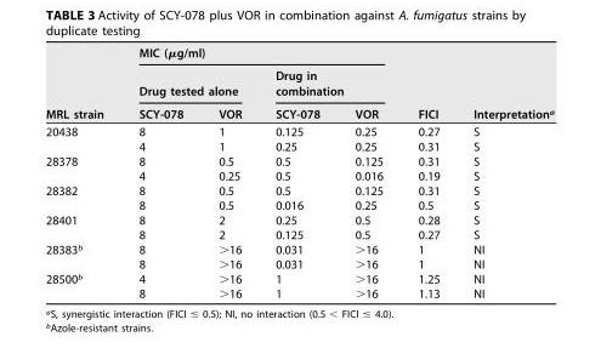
<table><thead><tr><td rowspan="3">MRL strain</td><td colspan="4">MIC (μg/ml)</td><td rowspan="3">FICI</td><td rowspan="3">Interpretation<sup>a</sup></td></tr><tr><td colspan="2">Drug tested alone</td><td colspan="2">Drug in combination</td></tr><tr><td>SCY-078</td><td>VOR</td><td>SCY-078</td><td>VOR</td></tr></thead><tbody><tr><td rowspan="2">20438</td><td>8</td><td>1</td><td>0.125</td><td>0.25</td><td>0.27</td><td>S</td></tr><tr><td>4</td><td>1</td><td>0.25</td><td>0.25</td><td>0.31</td><td>S</td></tr><tr><td rowspan="2">28378</td><td>8</td><td>0.5</td><td>0.5</td><td>0.125</td><td>0.31</td><td>S</td></tr><tr><td>4</td><td>0.25</td><td>0.5</td><td>0.016</td><td>0.19</td><td>S</td></tr><tr><td rowspan="2">28382</td><td>8</td><td>0.5</td><td>0.5</td><td>0.125</td><td>0.31</td><td>S</td></tr><tr><td>8</td><td>0.5</td><td>0.016</td><td>0.25</td><td>0.5</td><td>S</td></tr><tr><td rowspan="2">28401</td><td>8</td><td>2</td><td>0.25</td><td>0.5</td><td>0.28</td><td>S</td></tr><tr><td>8</td><td>2</td><td>0.125</td><td>0.5</td><td>0.27</td><td>S</td></tr><tr><td rowspan="2">28383<sup>b</sup></td><td>8</td><td>&gt;16</td><td>0.031</td><td>&gt;16</td><td>1</td><td>NI</td></tr><tr><td>8</td><td>&gt;16</td><td>0.031</td><td>&gt;16</td><td>1</td><td>NI</td></tr><tr><td rowspan="2">28500<sup>b</sup></td><td>4</td><td>&gt;16</td><td>1</td><td>&gt;16</td><td>1.25</td><td>NI</td></tr><tr><td>8</td><td>&gt;16</td><td>1</td><td>&gt;16</td><td>1.13</td><td>NI</td></tr></tbody></table>